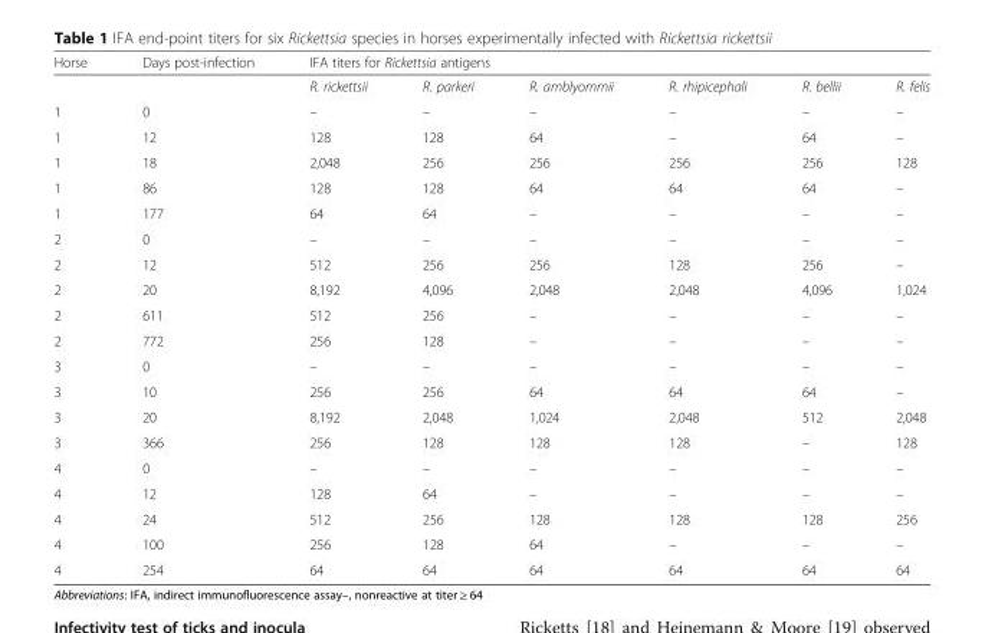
<table><thead><tr><td rowspan="2">Horse</td><td rowspan="2">Days post-infection</td><td colspan="6">IFA titers for Rickettsia antigens</td></tr><tr><td>R. rickettsii</td><td>R. parkeri</td><td>R. amblyommii</td><td>R. rhipicephali</td><td>R. bellii</td><td>R. felis</td></tr></thead><tbody><tr><td>1</td><td>0</td><td>–</td><td>–</td><td>–</td><td>–</td><td>–</td><td>–</td></tr><tr><td>1</td><td>12</td><td>128</td><td>128</td><td>64</td><td>–</td><td>64</td><td>–</td></tr><tr><td>1</td><td>18</td><td>2,048</td><td>256</td><td>256</td><td>256</td><td>256</td><td>128</td></tr><tr><td>1</td><td>86</td><td>128</td><td>128</td><td>64</td><td>64</td><td>64</td><td>–</td></tr><tr><td>1</td><td>177</td><td>64</td><td>64</td><td>–</td><td>–</td><td>–</td><td>–</td></tr><tr><td>2</td><td>0</td><td>–</td><td>–</td><td>–</td><td>–</td><td>–</td><td>–</td></tr><tr><td>2</td><td>12</td><td>512</td><td>256</td><td>256</td><td>128</td><td>256</td><td>–</td></tr><tr><td>2</td><td>20</td><td>8,192</td><td>4,096</td><td>2,048</td><td>2,048</td><td>4,096</td><td>1,024</td></tr><tr><td>2</td><td>611</td><td>512</td><td>256</td><td>–</td><td>–</td><td>–</td><td>–</td></tr><tr><td>2</td><td>772</td><td>256</td><td>128</td><td>–</td><td>–</td><td>–</td><td>–</td></tr><tr><td>3</td><td>0</td><td>–</td><td>–</td><td>–</td><td>–</td><td>–</td><td>–</td></tr><tr><td>3</td><td>10</td><td>256</td><td>256</td><td>64</td><td>64</td><td>64</td><td>–</td></tr><tr><td>3</td><td>20</td><td>8,192</td><td>2,048</td><td>1,024</td><td>2,048</td><td>512</td><td>2,048</td></tr><tr><td>3</td><td>366</td><td>256</td><td>128</td><td>128</td><td>128</td><td>–</td><td>128</td></tr><tr><td>4</td><td>0</td><td>–</td><td>–</td><td>–</td><td>–</td><td>–</td><td>–</td></tr><tr><td>4</td><td>12</td><td>128</td><td>64</td><td>–</td><td>–</td><td>–</td><td>–</td></tr><tr><td>4</td><td>24</td><td>512</td><td>256</td><td>128</td><td>128</td><td>128</td><td>256</td></tr><tr><td>4</td><td>100</td><td>256</td><td>128</td><td>64</td><td>–</td><td>–</td><td>–</td></tr><tr><td>4</td><td>254</td><td>64</td><td>64</td><td>64</td><td>64</td><td>64</td><td>64</td></tr></tbody></table>